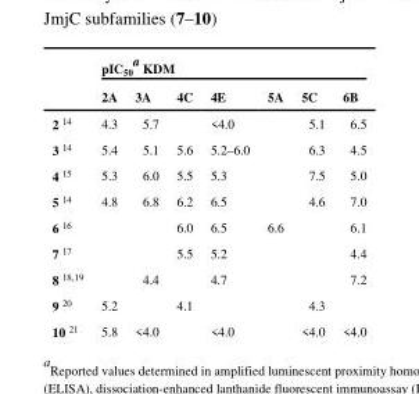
<table><thead><tr><td rowspan="2"></td><td colspan="7">pIC<sub>50</sub><sup>a</sup> KDM</td></tr><tr><td>2A</td><td>3A</td><td>4C</td><td>4E</td><td>5A</td><td>5C</td><td>6B</td></tr></thead><tbody><tr><td>2 <sup>14</sup></td><td>4.3</td><td>5.7</td><td></td><td>&lt;4.0</td><td></td><td>5.1</td><td>6.5</td></tr><tr><td>3 <sup>14</sup></td><td>5.4</td><td>5.1</td><td>5.6</td><td>5.2–6.0</td><td></td><td>6.3</td><td>4.5</td></tr><tr><td>4 <sup>15</sup></td><td>5.3</td><td>6.0</td><td>5.5</td><td>5.3</td><td></td><td>7.5</td><td>5.0</td></tr><tr><td>5 <sup>14</sup></td><td>4.8</td><td>6.8</td><td>6.2</td><td>6.5</td><td></td><td>4.6</td><td>7.0</td></tr><tr><td>6 <sup>16</sup></td><td></td><td></td><td>6.0</td><td>6.5</td><td>6.6</td><td></td><td>6.1</td></tr><tr><td>7 <sup>17</sup></td><td></td><td></td><td>5.5</td><td>5.2</td><td></td><td></td><td>4.4</td></tr><tr><td>8 <sup>18,19</sup></td><td></td><td>4.4</td><td></td><td>4.7</td><td></td><td></td><td>7.2</td></tr><tr><td>9 <sup>20</sup></td><td>5.2</td><td></td><td>4.1</td><td></td><td></td><td>4.3</td><td></td></tr><tr><td>10 <sup>21</sup></td><td>5.8</td><td>&lt;4.0</td><td></td><td>&lt;4.0</td><td></td><td>&lt;4.0</td><td>&lt;4.0</td></tr></tbody></table>